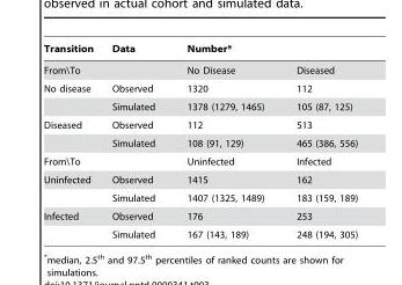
<table><thead><tr><td rowspan="2">Transition From\To</td><td rowspan="2">Data</td><td colspan="2">Number*</td></tr><tr><td>No Disease</td><td>Diseased</td></tr></thead><tbody><tr><td rowspan="2">No disease</td><td>Observed</td><td>1320</td><td>112</td></tr><tr><td>Simulated</td><td>1378 (1279, 1465)</td><td>105 (87, 125)</td></tr><tr><td rowspan="2">Diseased</td><td>Observed</td><td>112</td><td>513</td></tr><tr><td>Simulated</td><td>108 (91, 129)</td><td>465 (386, 556)</td></tr><tr><td>From\To</td><td></td><td>Uninfected</td><td>Infected</td></tr><tr><td rowspan="2">Uninfected</td><td>Observed</td><td>1415</td><td>162</td></tr><tr><td>Simulated</td><td>1407 (1325, 1489)</td><td>183 (159, 189)</td></tr><tr><td rowspan="2">Infected</td><td>Observed</td><td>176</td><td>253</td></tr><tr><td>Simulated</td><td>167 (143, 189)</td><td>248 (194, 305)</td></tr></tbody></table>